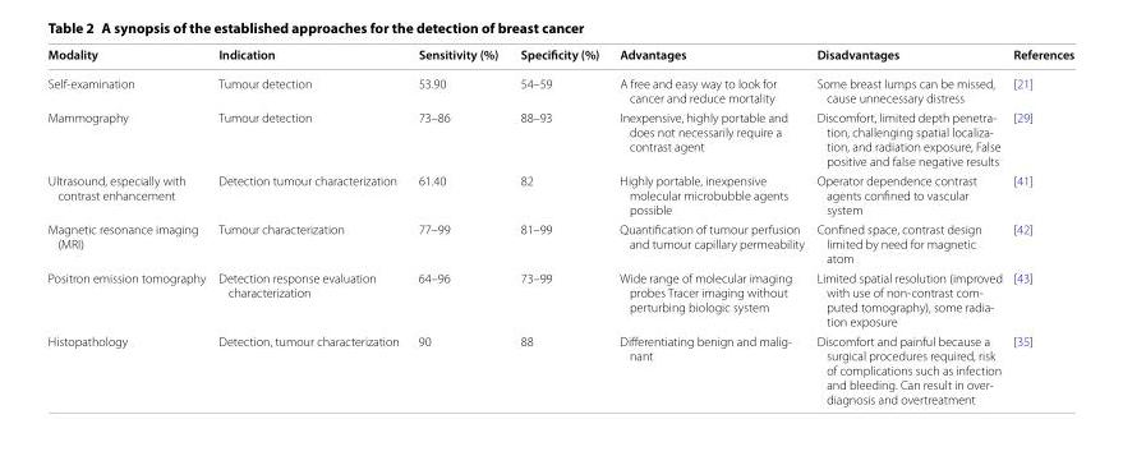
<table><thead><tr><td>Modality</td><td>Indication</td><td>Sensitivity (%)</td><td>Specificity (%)</td><td>Advantages</td><td>Disadvantages</td><td>References</td></tr></thead><tbody><tr><td>Self‑examination</td><td>Tumour detection</td><td>53.90</td><td>54–59</td><td>A free and easy way to look for cancer and reduce mortality</td><td>Some breast lumps can be missed, cause unnecessary distress</td><td>[21]</td></tr><tr><td>Mammography</td><td>Tumour detection</td><td>73–86</td><td>88–93</td><td>Inexpensive, highly portable and does not necessarily require a contrast agent</td><td>Discomfort, limited depth penetra‑ tion, challenging spatial localiza‑ tion, and radiation exposure, False positive and false negative results</td><td>[29]</td></tr><tr><td>Ultrasound, especially with contrast enhancement</td><td>Detection tumour characterization</td><td>61.40</td><td>82</td><td>Highly portable, inexpensive molecular microbubble agents possible</td><td>Operator dependence contrast agents confined to vascular system</td><td>[41]</td></tr><tr><td>Magnetic resonance imaging (MRI)</td><td>Tumour characterization</td><td>77–99</td><td>81–99</td><td>Quantification of tumour perfusion and tumour capillary permeability</td><td>Confined space, contrast design limited by need for magnetic atom</td><td>[42]</td></tr><tr><td>Positron emission tomography</td><td>Detection response evaluation characterization</td><td>64–96</td><td>73–99</td><td>Wide range of molecular imaging probes Tracer imaging without perturbing biologic system</td><td>Limited spatial resolution (improved with use of non‑contrast com‑ puted tomography), some radia‑ tion exposure</td><td>[43]</td></tr><tr><td>Histopathology</td><td>Detection, tumour characterization</td><td>90</td><td>88</td><td>Differentiating benign and malig‑ nant</td><td>Discomfort and painful because a surgical procedures required, risk of complications such as infection and bleeding. Can result in over‑ diagnosis and overtreatment</td><td>[35]</td></tr></tbody></table>